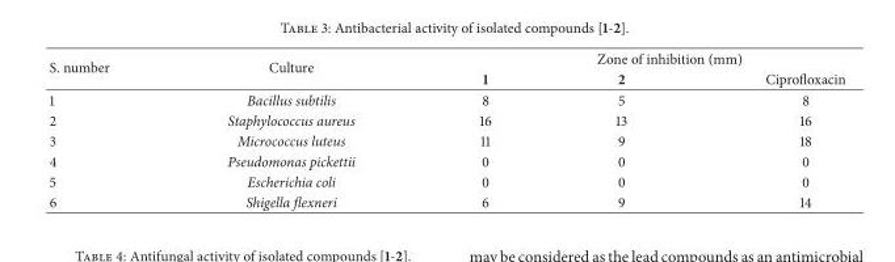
<table><thead><tr><td rowspan="2">S. number</td><td rowspan="2">Culture</td><td colspan="3">Zone of inhibition (mm)</td></tr><tr><td>1</td><td>2</td><td>Ciprofloxacin</td></tr></thead><tbody><tr><td>1</td><td>Bacillus subtilis</td><td>8</td><td>5</td><td>8</td></tr><tr><td>2</td><td>Staphylococcus aureus</td><td>16</td><td>13</td><td>16</td></tr><tr><td>3</td><td>Micrococcus luteus</td><td>11</td><td>9</td><td>18</td></tr><tr><td>4</td><td>Pseudomonas pickettii</td><td>0</td><td>0</td><td>0</td></tr><tr><td>5</td><td>Escherichia coli</td><td>0</td><td>0</td><td>0</td></tr><tr><td>6</td><td>Shigella flexneri</td><td>6</td><td>9</td><td>14</td></tr></tbody></table>